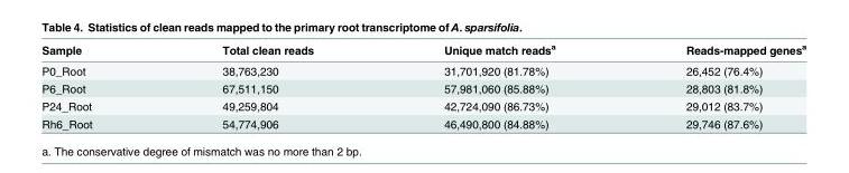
<table><thead><tr><td>Sample</td><td>Total clean reads</td><td>Unique match reads<sup>a</sup></td><td>Reads-mapped genes<sup>a</sup></td></tr></thead><tbody><tr><td>P0_Root</td><td>38,763,230</td><td>31,701,920 (81.78%)</td><td>26,452 (76.4%)</td></tr><tr><td>P6_Root</td><td>67,511,150</td><td>57,981,060 (85.88%)</td><td>28,803 (81.8%)</td></tr><tr><td>P24_Root</td><td>49,259,804</td><td>42,724,090 (86.73%)</td><td>29,012 (83.7%)</td></tr><tr><td>Rh6_Root</td><td>54,774,906</td><td>46,490,800 (84.88%)</td><td>29,746 (87.6%)</td></tr></tbody></table>